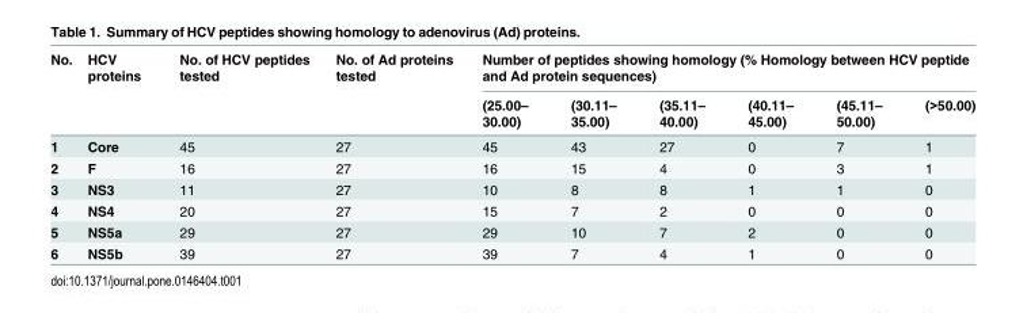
<table><thead><tr><td rowspan="2">No.</td><td rowspan="2">HCV proteins</td><td rowspan="2">No. of HCV peptides tested</td><td rowspan="2">No. of Ad proteins tested</td><td colspan="6">Number of peptides showing homology (% Homology between HCV peptide and Ad protein sequences)</td></tr><tr><td>(25.00– 30.00)</td><td>(30.11– 35.00)</td><td>(35.11– 40.00)</td><td>(40.11– 45.00)</td><td>(45.11– 50.00)</td><td>(&gt;50.00)</td></tr></thead><tbody><tr><td>1</td><td>Core</td><td>45</td><td>27</td><td>45</td><td>43</td><td>27</td><td>0</td><td>7</td><td>1</td></tr><tr><td>2</td><td>F</td><td>16</td><td>27</td><td>16</td><td>15</td><td>4</td><td>0</td><td>3</td><td>1</td></tr><tr><td>3</td><td>NS3</td><td>11</td><td>27</td><td>10</td><td>8</td><td>8</td><td>1</td><td>1</td><td>0</td></tr><tr><td>4</td><td>NS4</td><td>20</td><td>27</td><td>15</td><td>7</td><td>2</td><td>0</td><td>0</td><td>0</td></tr><tr><td>5</td><td>NS5a</td><td>29</td><td>27</td><td>29</td><td>10</td><td>7</td><td>2</td><td>0</td><td>0</td></tr><tr><td>6</td><td>NS5b</td><td>39</td><td>27</td><td>39</td><td>7</td><td>4</td><td>1</td><td>0</td><td>0</td></tr></tbody></table>